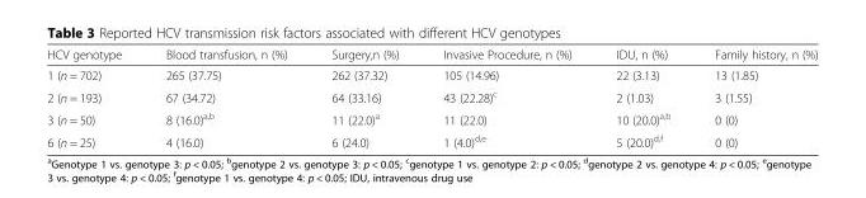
<table><thead><tr><td>HCV genotype</td><td>Blood transfusion, n (%)</td><td>Surgery,n (%)</td><td>Invasive Procedure, n (%)</td><td>IDU, n (%)</td><td>Family history, n (%)</td></tr></thead><tbody><tr><td>1 (n = 702)</td><td>265 (37.75)</td><td>262 (37.32)</td><td>105 (14.96)</td><td>22 (3.13)</td><td>13 (1.85)</td></tr><tr><td>2 (n = 193)</td><td>67 (34.72)</td><td>64 (33.16)</td><td>43 (22.28)<sup>c</sup></td><td>2 (1.03)</td><td>3 (1.55)</td></tr><tr><td>3 (n = 50)</td><td>8 (16.0)<sup>a,b</sup></td><td>11 (22.0)<sup>a</sup></td><td>11 (22.0)</td><td>10 (20.0)<sup>a,b</sup></td><td>0 (0)</td></tr><tr><td>6 (n = 25)</td><td>4 (16.0)</td><td>6 (24.0)</td><td>1 (4.0)<sup>d,e</sup></td><td>5 (20.0)<sup>d,f</sup></td><td>0 (0)</td></tr></tbody></table>